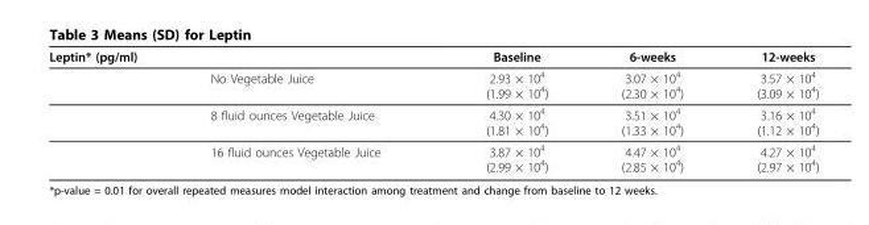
<table><thead><tr><td>Leptin* (pg/ml)</td><td></td><td>Baseline</td><td>6-weeks</td><td>12-weeks</td></tr></thead><tbody><tr><td></td><td>No Vegetable Juice</td><td>2.93 × 10<sup>4</sup> (1.99 × 10<sup>4</sup>)</td><td>3.07 × 10<sup>4</sup> (2.30 × 10<sup>4</sup>)</td><td>3.57 × 10<sup>4</sup> (3.09 × 10<sup>4</sup>)</td></tr><tr><td></td><td>8 fluid ounces Vegetable Juice</td><td>4.30 × 10<sup>4</sup> (1.81 × 10<sup>4</sup>)</td><td>3.51 × 10<sup>4</sup> (1.33 × 10<sup>4</sup>)</td><td>3.16 × 10<sup>4</sup> (1.12 × 10<sup>4</sup>)</td></tr><tr><td></td><td>16 fluid ounces Vegetable Juice</td><td>3.87 × 10<sup>4</sup> (2.99 × 10<sup>4</sup>)</td><td>4.47 × 10<sup>4</sup> (2.85 × 10<sup>4</sup>)</td><td>4.27 × 10<sup>4</sup> (2.97 × 10<sup>4</sup>)</td></tr></tbody></table>